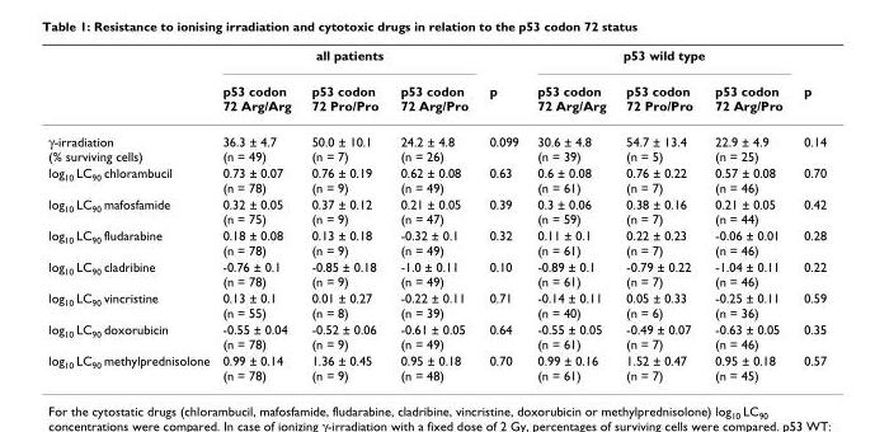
<table><thead><tr><td rowspan="2"></td><td colspan="3">all patients</td><td rowspan="2">p</td><td colspan="3">p53 wild type</td><td rowspan="2">p</td></tr><tr><td>p53 codon 72 Arg/Arg</td><td>p53 codon 72 Pro/Pro</td><td>p53 codon 72 Arg/Pro</td><td>p53 codon 72 Arg/Arg</td><td>p53 codon 72 Pro/Pro</td><td>p53 codon 72 Arg/Pro</td></tr></thead><tbody><tr><td>γ-irradiation (% surviving cells)</td><td>36.3 ± 4.7 (n = 49)</td><td>50.0 ± 10.1 (n = 7)</td><td>24.2 ± 4.8 (n = 26)</td><td>0.099</td><td>30.6 ± 4.8 (n = 39)</td><td>54.7 ± 13.4 (n = 5)</td><td>22.9 ± 4.9 (n = 25)</td><td>0.14</td></tr><tr><td>log10 LC90 chlorambucil</td><td>0.73 ± 0.07 (n = 78)</td><td>0.76 ± 0.19 (n = 9)</td><td>0.62 ± 0.08 (n = 49)</td><td>0.63</td><td>0.6 ± 0.08 (n = 61)</td><td>0.76 ± 0.22 (n = 7)</td><td>0.57 ± 0.08 (n = 46)</td><td>0.70</td></tr><tr><td>log10 LC90 mafosfamide</td><td>0.32 ± 0.05 (n = 75)</td><td>0.37 ± 0.12 (n = 9)</td><td>0.21 ± 0.05 (n = 47)</td><td>0.39</td><td>0.3 ± 0.06 (n = 59)</td><td>0.38 ± 0.16 (n = 7)</td><td>0.21 ± 0.05 (n = 44)</td><td>0.42</td></tr><tr><td>log10 LC90 fludarabine</td><td>0.18 ± 0.08 (n = 78)</td><td>0.13 ± 0.18 (n = 9)</td><td>-0.32 ± 0.1 (n = 49)</td><td>0.32</td><td>0.11 ± 0.1 (n = 61)</td><td>0.22 ± 0.23 (n = 7)</td><td>-0.06 ± 0.01 (n = 46)</td><td>0.28</td></tr><tr><td>log10 LC90 cladribine</td><td>-0.76 ± 0.1 (n = 78)</td><td>-0.85 ± 0.18 (n = 9)</td><td>-1.0 ± 0.11 (n = 49)</td><td>0.10</td><td>-0.89 ± 0.1 (n = 61)</td><td>-0.79 ± 0.22 (n = 7)</td><td>-1.04 ± 0.11 (n = 46)</td><td>0.22</td></tr><tr><td>log10 LC90 vincristine</td><td>0.13 ± 0.1 (n = 55)</td><td>0.01 ± 0.27 (n = 8)</td><td>-0.22 ± 0.11 (n = 39)</td><td>0.71</td><td>-0.14 ± 0.11 (n = 40)</td><td>0.05 ± 0.33 (n = 6)</td><td>-0.25 ± 0.11 (n = 36)</td><td>0.59</td></tr><tr><td>log10 LC90 doxorubicin</td><td>-0.55 ± 0.04 (n = 78)</td><td>-0.52 ± 0.06 (n = 9)</td><td>-0.61 ± 0.05 (n = 49)</td><td>0.64</td><td>-0.55 ± 0.05 (n = 61)</td><td>-0.49 ± 0.07 (n = 7)</td><td>-0.63 ± 0.05 (n = 46)</td><td>0.35</td></tr><tr><td>log10 LC90 methylprednisolone</td><td>0.99 ± 0.14 (n = 78)</td><td>1.36 ± 0.45 (n = 9)</td><td>0.95 ± 0.18 (n = 48)</td><td>0.70</td><td>0.99 ± 0.16 (n = 61)</td><td>1.52 ± 0.47 (n = 7)</td><td>0.95 ± 0.18 (n = 45)</td><td>0.57</td></tr></tbody></table>